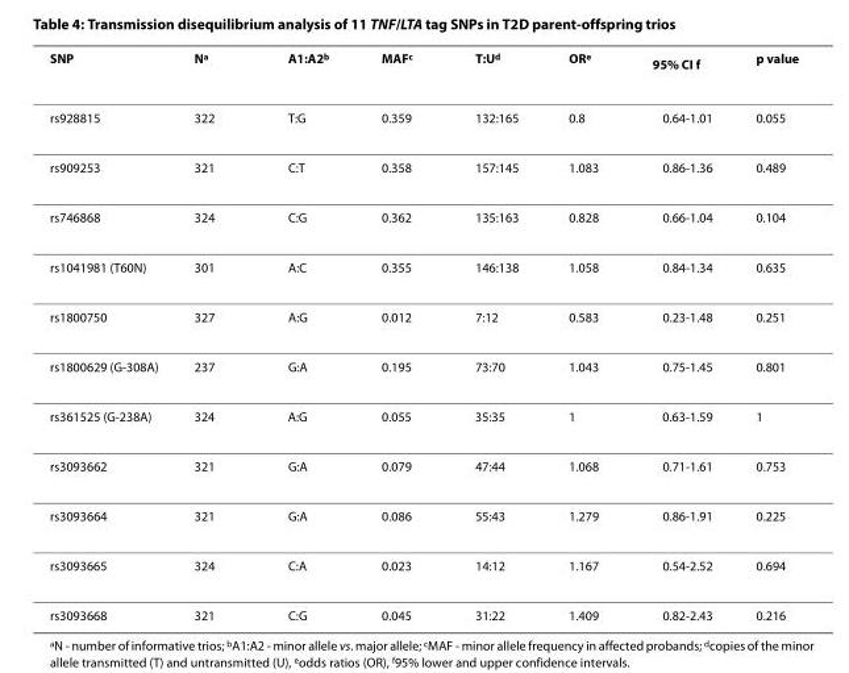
<table><thead><tr><td>SNP</td><td>N<sup>a</sup></td><td>A1:A2<sup>b</sup></td><td>MAF<sup>c</sup></td><td>T:U<sup>d</sup></td><td>OR<sup>e</sup></td><td>95% CI <sup>f</sup></td><td>p value</td></tr></thead><tbody><tr><td>rs928815</td><td>322</td><td>T:G</td><td>0.359</td><td>132:165</td><td>0.8</td><td>0.64-1.01</td><td>0.055</td></tr><tr><td>rs909253</td><td>321</td><td>C:T</td><td>0.358</td><td>157:145</td><td>1.083</td><td>0.86-1.36</td><td>0.489</td></tr><tr><td>rs746868</td><td>324</td><td>C:G</td><td>0.362</td><td>135:163</td><td>0.828</td><td>0.66-1.04</td><td>0.104</td></tr><tr><td>rs1041981 (T60N)</td><td>301</td><td>A:C</td><td>0.355</td><td>146:138</td><td>1.058</td><td>0.84-1.34</td><td>0.635</td></tr><tr><td>rs1800750</td><td>327</td><td>A:G</td><td>0.012</td><td>7:12</td><td>0.583</td><td>0.23-1.48</td><td>0.251</td></tr><tr><td>rs1800629 (G-308A)</td><td>237</td><td>G:A</td><td>0.195</td><td>73:70</td><td>1.043</td><td>0.75-1.45</td><td>0.801</td></tr><tr><td>rs361525 (G-238A)</td><td>324</td><td>A:G</td><td>0.055</td><td>35:35</td><td>1</td><td>0.63-1.59</td><td>1</td></tr><tr><td>rs3093662</td><td>321</td><td>G:A</td><td>0.079</td><td>47:44</td><td>1.068</td><td>0.71-1.61</td><td>0.753</td></tr><tr><td>rs3093664</td><td>321</td><td>G:A</td><td>0.086</td><td>55:43</td><td>1.279</td><td>0.86-1.91</td><td>0.225</td></tr><tr><td>rs3093665</td><td>324</td><td>C:A</td><td>0.023</td><td>14:12</td><td>1.167</td><td>0.54-2.52</td><td>0.694</td></tr><tr><td>rs3093668</td><td>321</td><td>C:G</td><td>0.045</td><td>31:22</td><td>1.409</td><td>0.82-2.43</td><td>0.216</td></tr></tbody></table>